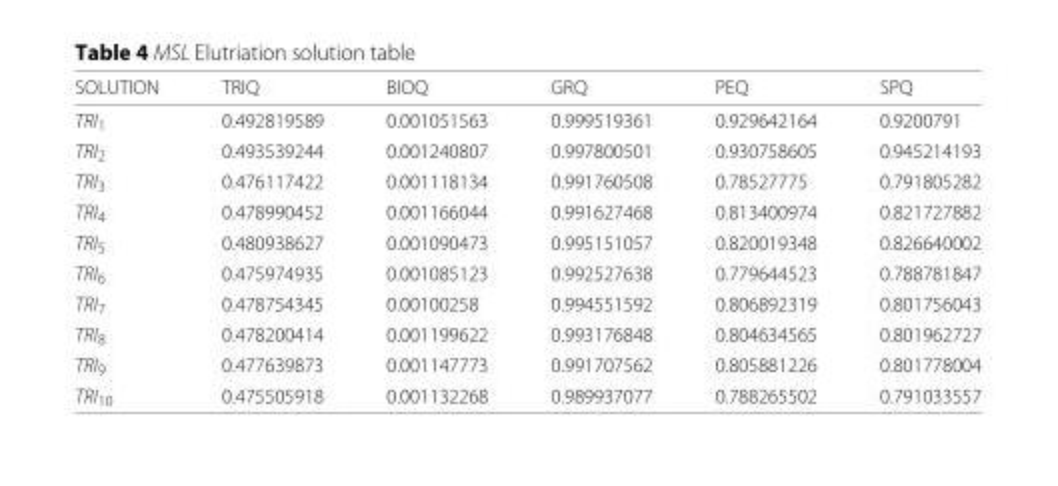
<table><thead><tr><td>SOLUTION</td><td>TRIQ</td><td>BIOQ</td><td>GRQ</td><td>PEQ</td><td>SPQ</td></tr></thead><tbody><tr><td>TRI<sub>1</sub></td><td>0.492819589</td><td>0.001051563</td><td>0.999519361</td><td>0.929642164</td><td>0.9200791</td></tr><tr><td>TRI<sub>2</sub></td><td>0.493539244</td><td>0.001240807</td><td>0.997800501</td><td>0.930758605</td><td>0.945214193</td></tr><tr><td>TRI<sub>3</sub></td><td>0.476117422</td><td>0.001118134</td><td>0.991760508</td><td>0.78527775</td><td>0.791805282</td></tr><tr><td>TRI<sub>4</sub></td><td>0.478990452</td><td>0.001166044</td><td>0.991627468</td><td>0.813400974</td><td>0.821727882</td></tr><tr><td>TRI<sub>5</sub></td><td>0.480938627</td><td>0.001090473</td><td>0.995151057</td><td>0.820019348</td><td>0.826640002</td></tr><tr><td>TRI<sub>6</sub></td><td>0.475974935</td><td>0.001085123</td><td>0.992527638</td><td>0.779644523</td><td>0.788781847</td></tr><tr><td>TRI<sub>7</sub></td><td>0.478754345</td><td>0.00100258</td><td>0.994551592</td><td>0.806892319</td><td>0.801756043</td></tr><tr><td>TRI<sub>8</sub></td><td>0.478200414</td><td>0.001199622</td><td>0.993176848</td><td>0.804634565</td><td>0.801962727</td></tr><tr><td>TRI<sub>9</sub></td><td>0.477639873</td><td>0.001147773</td><td>0.991707562</td><td>0.805881226</td><td>0.801778004</td></tr><tr><td>TRI<sub>10</sub></td><td>0.475505918</td><td>0.001132268</td><td>0.989937077</td><td>0.788265502</td><td>0.791033557</td></tr></tbody></table>